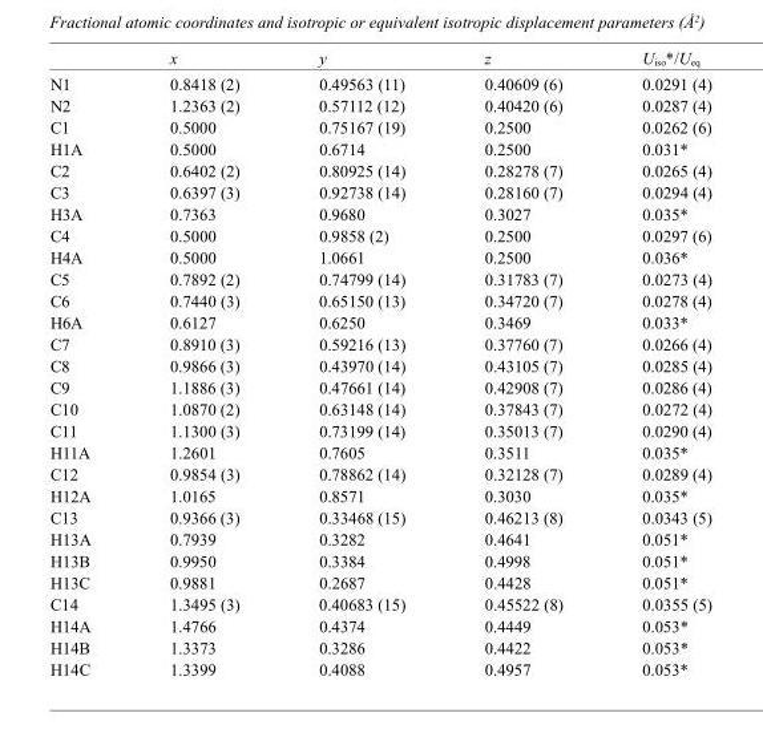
<table><thead><tr><td></td><td>x</td><td>y</td><td>z</td><td>U<sub>iso</sub>*/U<sub>eq</sub></td></tr></thead><tbody><tr><td>N1</td><td>0.8418 (2)</td><td>0.49563 (11)</td><td>0.40609 (6)</td><td>0.0291 (4)</td></tr><tr><td>N2</td><td>1.2363 (2)</td><td>0.57112 (12)</td><td>0.40420 (6)</td><td>0.0287 (4)</td></tr><tr><td>C1</td><td>0.5000</td><td>0.75167 (19)</td><td>0.2500</td><td>0.0262 (6)</td></tr><tr><td>H1A</td><td>0.5000</td><td>0.6714</td><td>0.2500</td><td>0.031*</td></tr><tr><td>C2</td><td>0.6402 (2)</td><td>0.80925 (14)</td><td>0.28278 (7)</td><td>0.0265 (4)</td></tr><tr><td>C3</td><td>0.6397 (3)</td><td>0.92738 (14)</td><td>0.28160 (7)</td><td>0.0294 (4)</td></tr><tr><td>H3A</td><td>0.7363</td><td>0.9680</td><td>0.3027</td><td>0.035*</td></tr><tr><td>C4</td><td>0.5000</td><td>0.9858 (2)</td><td>0.2500</td><td>0.0297 (6)</td></tr><tr><td>H4A</td><td>0.5000</td><td>1.0661</td><td>0.2500</td><td>0.036*</td></tr><tr><td>C5</td><td>0.7892 (2)</td><td>0.74799 (14)</td><td>0.31783 (7)</td><td>0.0273 (4)</td></tr><tr><td>C6</td><td>0.7440 (3)</td><td>0.65150 (13)</td><td>0.34720 (7)</td><td>0.0278 (4)</td></tr><tr><td>H6A</td><td>0.6127</td><td>0.6250</td><td>0.3469</td><td>0.033*</td></tr><tr><td>C7</td><td>0.8910 (3)</td><td>0.59216 (13)</td><td>0.37760 (7)</td><td>0.0266 (4)</td></tr><tr><td>C8</td><td>0.9866 (3)</td><td>0.43970 (14)</td><td>0.43105 (7)</td><td>0.0285 (4)</td></tr><tr><td>C9</td><td>1.1886 (3)</td><td>0.47661 (14)</td><td>0.42908 (7)</td><td>0.0286 (4)</td></tr><tr><td>C10</td><td>1.0870 (2)</td><td>0.63148 (14)</td><td>0.37843 (7)</td><td>0.0272 (4)</td></tr><tr><td>C11</td><td>1.1300 (3)</td><td>0.73199 (14)</td><td>0.35013 (7)</td><td>0.0290 (4)</td></tr><tr><td>H11A</td><td>1.2601</td><td>0.7605</td><td>0.3511</td><td>0.035*</td></tr><tr><td>C12</td><td>0.9854 (3)</td><td>0.78862 (14)</td><td>0.32128 (7)</td><td>0.0289 (4)</td></tr><tr><td>H12A</td><td>1.0165</td><td>0.8571</td><td>0.3030</td><td>0.035*</td></tr><tr><td>C13</td><td>0.9366 (3)</td><td>0.33468 (15)</td><td>0.46213 (8)</td><td>0.0343 (5)</td></tr><tr><td>H13A</td><td>0.7939</td><td>0.3282</td><td>0.4641</td><td>0.051*</td></tr><tr><td>H13B</td><td>0.9950</td><td>0.3384</td><td>0.4998</td><td>0.051*</td></tr><tr><td>H13C</td><td>0.9881</td><td>0.2687</td><td>0.4428</td><td>0.051*</td></tr><tr><td>C14</td><td>1.3495 (3)</td><td>0.40683 (15)</td><td>0.45522 (8)</td><td>0.0355 (5)</td></tr><tr><td>H14A</td><td>1.4766</td><td>0.4374</td><td>0.4449</td><td>0.053*</td></tr><tr><td>H14B</td><td>1.3373</td><td>0.3286</td><td>0.4422</td><td>0.053*</td></tr><tr><td>H14C</td><td>1.3399</td><td>0.4088</td><td>0.4957</td><td>0.053*</td></tr></tbody></table>